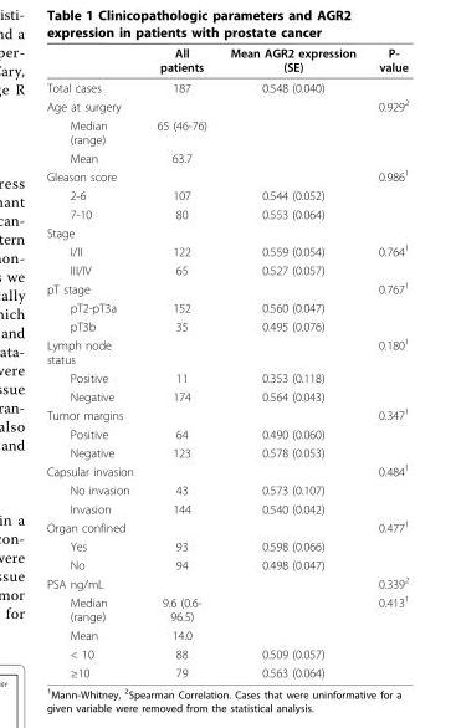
<table><thead><tr><td></td><td>All patients</td><td>Mean AGR2 expression (SE)</td><td>P- value</td></tr></thead><tbody><tr><td>Total cases</td><td>187</td><td>0.548 (0.040)</td><td></td></tr><tr><td>Age at surgery</td><td></td><td></td><td>0.929<sup>2</sup></td></tr><tr><td>Median (range)</td><td>65 (46-76)</td><td></td><td></td></tr><tr><td>Mean</td><td>63.7</td><td></td><td></td></tr><tr><td>Gleason score</td><td></td><td></td><td>0.986<sup>1</sup></td></tr><tr><td>2-6</td><td>107</td><td>0.544 (0.052)</td><td></td></tr><tr><td>7-10</td><td>80</td><td>0.553 (0.064)</td><td></td></tr><tr><td colspan="4">Stage</td></tr><tr><td>I/II</td><td>122</td><td>0.559 (0.054)</td><td>0.764<sup>1</sup></td></tr><tr><td>III/IV</td><td>65</td><td>0.527 (0.057)</td><td></td></tr><tr><td>pT stage</td><td></td><td></td><td>0.767<sup>1</sup></td></tr><tr><td>pT2-pT3a</td><td>152</td><td>0.560 (0.047)</td><td></td></tr><tr><td>pT3b</td><td>35</td><td>0.495 (0.076)</td><td></td></tr><tr><td>Lymph node status</td><td></td><td></td><td>0.180<sup>1</sup></td></tr><tr><td>Positive</td><td>11</td><td>0.353 (0.118)</td><td></td></tr><tr><td>Negative</td><td>174</td><td>0.564 (0.043)</td><td></td></tr><tr><td>Tumor margins</td><td></td><td></td><td>0.347<sup>1</sup></td></tr><tr><td>Positive</td><td>64</td><td>0.490 (0.060)</td><td></td></tr><tr><td>Negative</td><td>123</td><td>0.578 (0.053)</td><td></td></tr><tr><td>Capsular invasion</td><td></td><td></td><td>0.484<sup>1</sup></td></tr><tr><td>No invasion</td><td>43</td><td>0.573 (0.107)</td><td></td></tr><tr><td>Invasion</td><td>144</td><td>0.540 (0.042)</td><td></td></tr><tr><td>Organ confined</td><td></td><td></td><td>0.477<sup>1</sup></td></tr><tr><td>Yes</td><td>93</td><td>0.598 (0.066)</td><td></td></tr><tr><td>No</td><td>94</td><td>0.498 (0.047)</td><td></td></tr><tr><td>PSA ng/mL</td><td></td><td></td><td>0.339<sup>2</sup></td></tr><tr><td>Median (range)</td><td>9.6 (0.6- 96.5)</td><td></td><td>0.413<sup>1</sup></td></tr><tr><td>Mean</td><td>14.0</td><td></td><td></td></tr><tr><td>&lt; 10</td><td>88</td><td>0.509 (0.057)</td><td></td></tr><tr><td>≥10</td><td>79</td><td>0.563 (0.064)</td><td></td></tr></tbody></table>